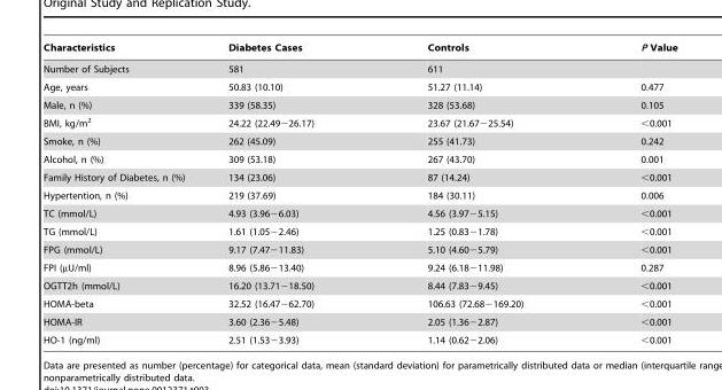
<table><thead><tr><td>Characteristics</td><td>Diabetes Cases</td><td>Controls</td><td>P Value</td></tr></thead><tbody><tr><td>Number of Subjects</td><td>581</td><td>611</td><td></td></tr><tr><td>Age, years</td><td>50.83 (10.10)</td><td>51.27 (11.14)</td><td>0.477</td></tr><tr><td>Male, n (%)</td><td>339 (58.35)</td><td>328 (53.68)</td><td>0.105</td></tr><tr><td>BMI, kg/m<sup>2</sup></td><td>24.22 (22.49−26.17)</td><td>23.67 (21.67−25.54)</td><td>&lt;0.001</td></tr><tr><td>Smoke, n (%)</td><td>262 (45.09)</td><td>255 (41.73)</td><td>0.242</td></tr><tr><td>Alcohol, n (%)</td><td>309 (53.18)</td><td>267 (43.70)</td><td>0.001</td></tr><tr><td>Family History of Diabetes, n (%)</td><td>134 (23.06)</td><td>87 (14.24)</td><td>&lt;0.001</td></tr><tr><td>Hypertention, n (%)</td><td>219 (37.69)</td><td>184 (30.11)</td><td>0.006</td></tr><tr><td>TC (mmol/L)</td><td>4.93 (3.96−6.03)</td><td>4.56 (3.97−5.15)</td><td>&lt;0.001</td></tr><tr><td>TG (mmol/L)</td><td>1.61 (1.05−2.46)</td><td>1.25 (0.83−1.78)</td><td>&lt;0.001</td></tr><tr><td>FPG (mmol/L)</td><td>9.17 (7.47−11.83)</td><td>5.10 (4.60−5.79)</td><td>&lt;0.001</td></tr><tr><td>FPI (µU/ml)</td><td>8.96 (5.86−13.40)</td><td>9.24 (6.18−11.98)</td><td>0.287</td></tr><tr><td>OGTT2h (mmol/L)</td><td>16.20 (13.71−18.50)</td><td>8.44 (7.83−9.45)</td><td>&lt;0.001</td></tr><tr><td>HOMA-beta</td><td>32.52 (16.47−62.70)</td><td>106.63 (72.68−169.20)</td><td>&lt;0.001</td></tr><tr><td>HOMA-IR</td><td>3.60 (2.36−5.48)</td><td>2.05 (1.36−2.87)</td><td>&lt;0.001</td></tr><tr><td>HO-1 (ng/ml)</td><td>2.51 (1.53−3.93)</td><td>1.14 (0.62−2.06)</td><td>&lt;0.001</td></tr></tbody></table>